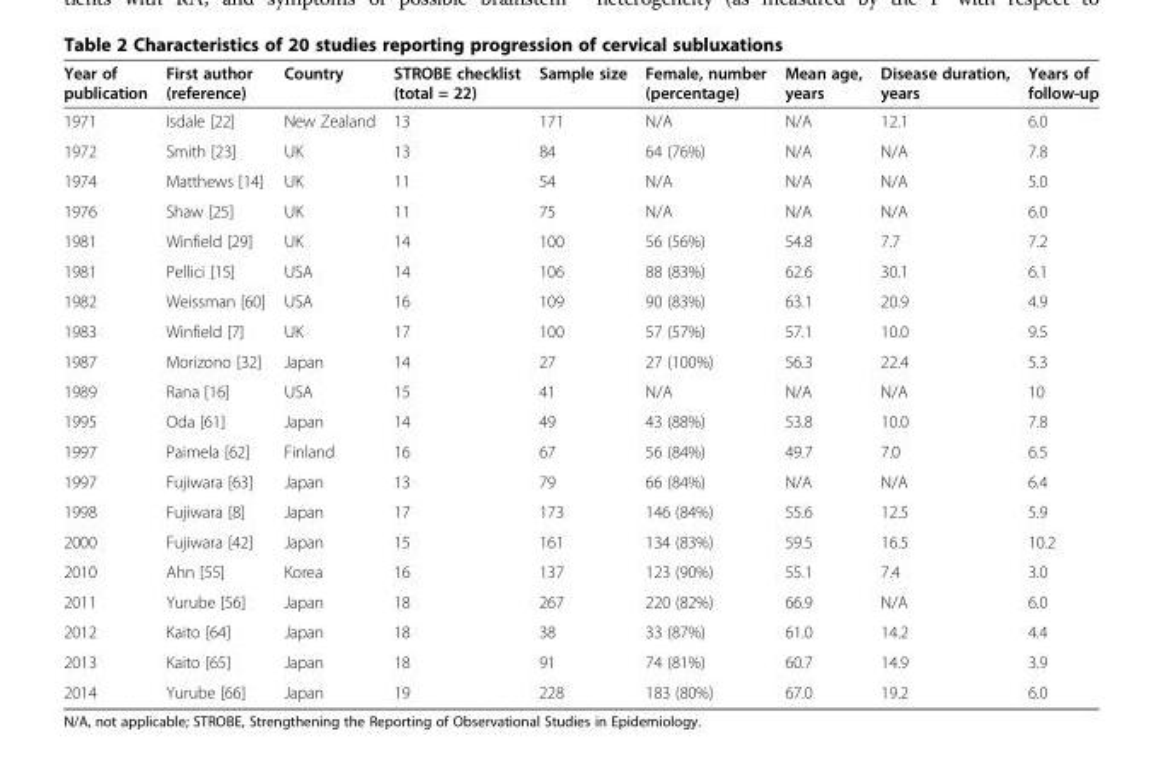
<table><thead><tr><td>Year of publication</td><td>First author (reference)</td><td>Country</td><td>STROBE checklist (total = 22)</td><td>Sample size</td><td>Female, number (percentage)</td><td>Mean age, years</td><td>Disease duration, years</td><td>Years of follow-up</td></tr></thead><tbody><tr><td>1971</td><td>Isdale [22]</td><td>New Zealand</td><td>13</td><td>171</td><td>N/A</td><td>N/A</td><td>12.1</td><td>6.0</td></tr><tr><td>1972</td><td>Smith [23]</td><td>UK</td><td>13</td><td>84</td><td>64 (76%)</td><td>N/A</td><td>N/A</td><td>7.8</td></tr><tr><td>1974</td><td>Matthews [14]</td><td>UK</td><td>11</td><td>54</td><td>N/A</td><td>N/A</td><td>N/A</td><td>5.0</td></tr><tr><td>1976</td><td>Shaw [25]</td><td>UK</td><td>11</td><td>75</td><td>N/A</td><td>N/A</td><td>N/A</td><td>6.0</td></tr><tr><td>1981</td><td>Winfield [29]</td><td>UK</td><td>14</td><td>100</td><td>56 (56%)</td><td>54.8</td><td>7.7</td><td>7.2</td></tr><tr><td>1981</td><td>Pellici [15]</td><td>USA</td><td>14</td><td>106</td><td>88 (83%)</td><td>62.6</td><td>30.1</td><td>6.1</td></tr><tr><td>1982</td><td>Weissman [60]</td><td>USA</td><td>16</td><td>109</td><td>90 (83%)</td><td>63.1</td><td>20.9</td><td>4.9</td></tr><tr><td>1983</td><td>Winfield [7]</td><td>UK</td><td>17</td><td>100</td><td>57 (57%)</td><td>57.1</td><td>10.0</td><td>9.5</td></tr><tr><td>1987</td><td>Morizono [32]</td><td>Japan</td><td>14</td><td>27</td><td>27 (100%)</td><td>56.3</td><td>22.4</td><td>5.3</td></tr><tr><td>1989</td><td>Rana [16]</td><td>USA</td><td>15</td><td>41</td><td>N/A</td><td>N/A</td><td>N/A</td><td>10</td></tr><tr><td>1995</td><td>Oda [61]</td><td>Japan</td><td>14</td><td>49</td><td>43 (88%)</td><td>53.8</td><td>10.0</td><td>7.8</td></tr><tr><td>1997</td><td>Paimela [62]</td><td>Finland</td><td>16</td><td>67</td><td>56 (84%)</td><td>49.7</td><td>7.0</td><td>6.5</td></tr><tr><td>1997</td><td>Fujiwara [63]</td><td>Japan</td><td>13</td><td>79</td><td>66 (84%)</td><td>N/A</td><td>N/A</td><td>6.4</td></tr><tr><td>1998</td><td>Fujiwara [8]</td><td>Japan</td><td>17</td><td>173</td><td>146 (84%)</td><td>55.6</td><td>12.5</td><td>5.9</td></tr><tr><td>2000</td><td>Fujiwara [42]</td><td>Japan</td><td>15</td><td>161</td><td>134 (83%)</td><td>59.5</td><td>16.5</td><td>10.2</td></tr><tr><td>2010</td><td>Ahn [55]</td><td>Korea</td><td>16</td><td>137</td><td>123 (90%)</td><td>55.1</td><td>7.4</td><td>3.0</td></tr><tr><td>2011</td><td>Yurube [56]</td><td>Japan</td><td>18</td><td>267</td><td>220 (82%)</td><td>66.9</td><td>N/A</td><td>6.0</td></tr><tr><td>2012</td><td>Kaito [64]</td><td>Japan</td><td>18</td><td>38</td><td>33 (87%)</td><td>61.0</td><td>14.2</td><td>4.4</td></tr><tr><td>2013</td><td>Kaito [65]</td><td>Japan</td><td>18</td><td>91</td><td>74 (81%)</td><td>60.7</td><td>14.9</td><td>3.9</td></tr><tr><td>2014</td><td>Yurube [66]</td><td>Japan</td><td>19</td><td>228</td><td>183 (80%)</td><td>67.0</td><td>19.2</td><td>6.0</td></tr></tbody></table>